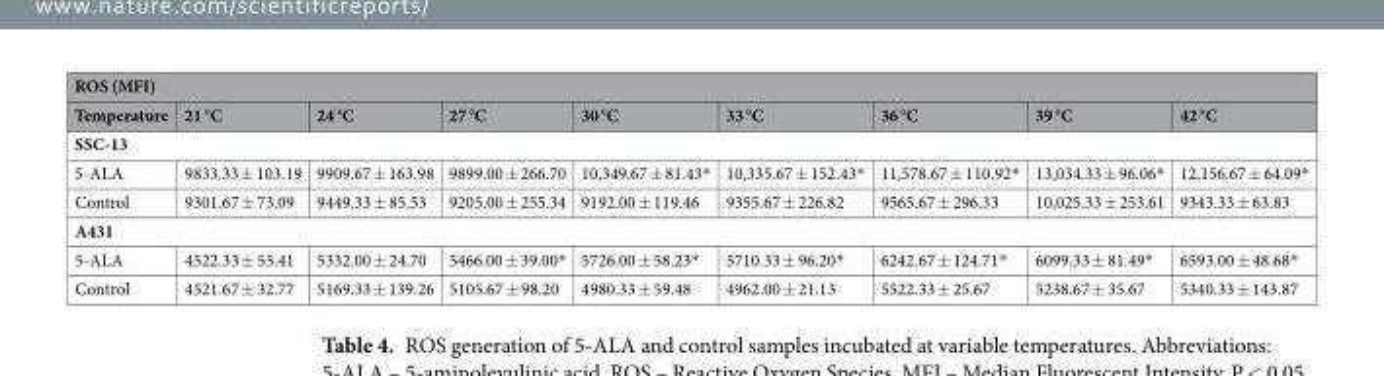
<table><thead><tr><td colspan="9">ROS (MFI)</td></tr><tr><td>Temperature</td><td>21 °C</td><td>24 °C</td><td>27 °C</td><td>30 °C</td><td>33 °C</td><td>36 °C</td><td>39 °C</td><td>42 °C</td></tr></thead><tbody><tr><td colspan="9">SSC-13</td></tr><tr><td>5-ALA</td><td>9833.33 ± 103.19</td><td>9909.67 ± 163.98</td><td>9899.00 ± 266.70</td><td>10,349.67 ± 81.43*</td><td>10,335.67 ± 152.43*</td><td>11,578.67 ± 110.92*</td><td>13,034.33 ± 96.06*</td><td>12,156.67 ± 64.09*</td></tr><tr><td>Control</td><td>9301.67 ± 73.09</td><td>9449.33 ± 85.53</td><td>9205.00 ± 255.34</td><td>9192.00 ± 119.46</td><td>9355.67 ± 226.82</td><td>9565.67 ± 296.33</td><td>10,025.33 ± 253.61</td><td>9343.33 ± 63.83</td></tr><tr><td colspan="9">A431</td></tr><tr><td>5-ALA</td><td>4522.33 ± 55.41</td><td>5332.00 ± 24.70</td><td>5466.00 ± 39.00*</td><td>5726.00 ± 58.23*</td><td>5710.33 ± 96.20*</td><td>6242.67 ± 124.71*</td><td>6099.33 ± 81.49*</td><td>6593.00 ± 48.68*</td></tr><tr><td>Control</td><td>4521.67 ± 32.77</td><td>5169.33 ± 139.26</td><td>5105.67 ± 98.20</td><td>4980.33 ± 59.48</td><td>4962.00 ± 21.13</td><td>5522.33 ± 25.67</td><td>5238.67 ± 35.67</td><td>5340.33 ± 143.87</td></tr></tbody></table>